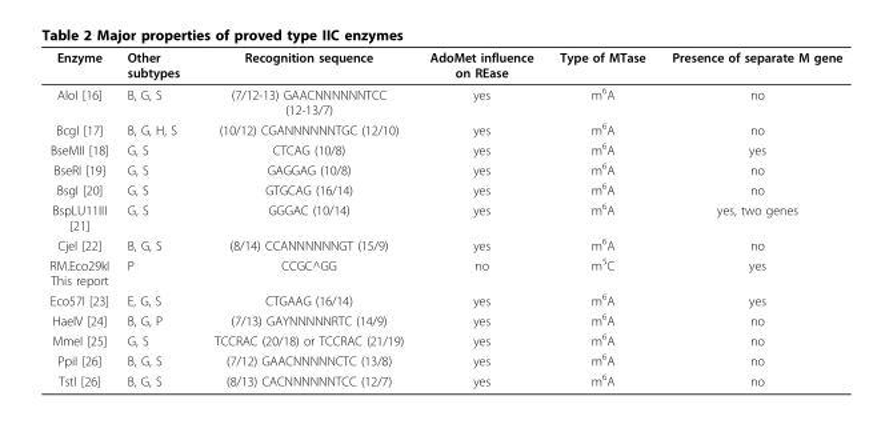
<table><thead><tr><td>Enzyme</td><td>Other subtypes</td><td>Recognition sequence</td><td>AdoMet influence on REase</td><td>Type of MTase</td><td>Presence of separate M gene</td></tr></thead><tbody><tr><td>AloI [16]</td><td>B, G, S</td><td>(7/12-13) GAACNNNNNNTCC (12-13/7)</td><td>yes</td><td>m<sup>6</sup>A</td><td>no</td></tr><tr><td>BcgI [17]</td><td>B, G, H, S</td><td>(10/12) CGANNNNNNTGC (12/10)</td><td>yes</td><td>m<sup>6</sup>A</td><td>no</td></tr><tr><td>BseMII [18]</td><td>G, S</td><td>CTCAG (10/8)</td><td>yes</td><td>m<sup>6</sup>A</td><td>yes</td></tr><tr><td>BseRI [19]</td><td>G, S</td><td>GAGGAG (10/8)</td><td>yes</td><td>m<sup>6</sup>A</td><td>no</td></tr><tr><td>BsgI [20]</td><td>G, S</td><td>GTGCAG (16/14)</td><td>yes</td><td>m<sup>6</sup>A</td><td>no</td></tr><tr><td>BspLU11III [21]</td><td>G, S</td><td>GGGAC (10/14)</td><td>yes</td><td>m<sup>6</sup>A</td><td>yes, two genes</td></tr><tr><td>CjeI [22]</td><td>B, G, S</td><td>(8/14) CCANNNNNNGT (15/9)</td><td>yes</td><td>m<sup>6</sup>A</td><td>no</td></tr><tr><td>RM.Eco29kI This report</td><td>P</td><td>CCGC^GG</td><td>no</td><td>m<sup>5</sup>C</td><td>yes</td></tr><tr><td>Eco57I [23]</td><td>E, G, S</td><td>CTGAAG (16/14)</td><td>yes</td><td>m<sup>6</sup>A</td><td>yes</td></tr><tr><td>HaeIV [24]</td><td>B, G, P</td><td>(7/13) GAYNNNNNRTC (14/9)</td><td>yes</td><td>m<sup>6</sup>A</td><td>no</td></tr><tr><td>MmeI [25]</td><td>G, S</td><td>TCCRAC (20/18) or TCCRAC (21/19)</td><td>yes</td><td>m<sup>6</sup>A</td><td>no</td></tr><tr><td>PpiI [26]</td><td>B, G, S</td><td>(7/12) GAACNNNNNCTC (13/8)</td><td>yes</td><td>m<sup>6</sup>A</td><td>no</td></tr><tr><td>TstI [26]</td><td>B, G, S</td><td>(8/13) CACNNNNNNTCC (12/7)</td><td>yes</td><td>m<sup>6</sup>A</td><td>no</td></tr></tbody></table>